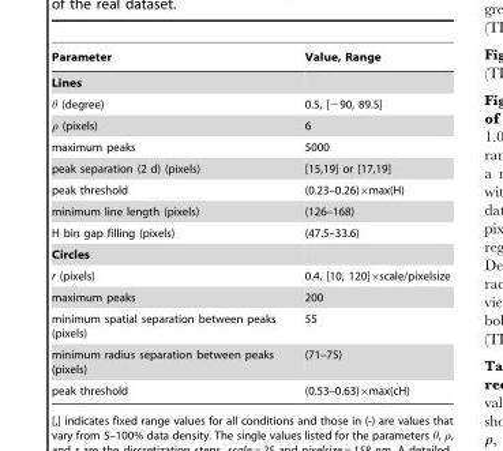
<table><thead><tr><td>Parameter</td><td>Value, Range</td></tr></thead><tbody><tr><td colspan="2">Lines</td></tr><tr><td>θ (degree)</td><td>0.5, [−90, 89.5]</td></tr><tr><td>ρ (pixels)</td><td>6</td></tr><tr><td>maximum peaks</td><td>5000</td></tr><tr><td>peak separation (2 d) (pixels)</td><td>[15,19] or [17,19]</td></tr><tr><td>peak threshold</td><td>(0.23–0.26)×max(H)</td></tr><tr><td>minimum line length (pixels)</td><td>(126–168)</td></tr><tr><td>H bin gap filling (pixels)</td><td>(47.5–33.6)</td></tr><tr><td colspan="2">Circles</td></tr><tr><td>r (pixels)</td><td>0.4, [10, 120]×scale/pixelsize</td></tr><tr><td>maximum peaks</td><td>200</td></tr><tr><td>minimum spatial separation between peaks (pixels)</td><td>55</td></tr><tr><td>minimum radius separation between peaks (pixels)</td><td>(71–75)</td></tr><tr><td>peak threshold</td><td>(0.53–0.63)×max(cH)</td></tr></tbody></table>